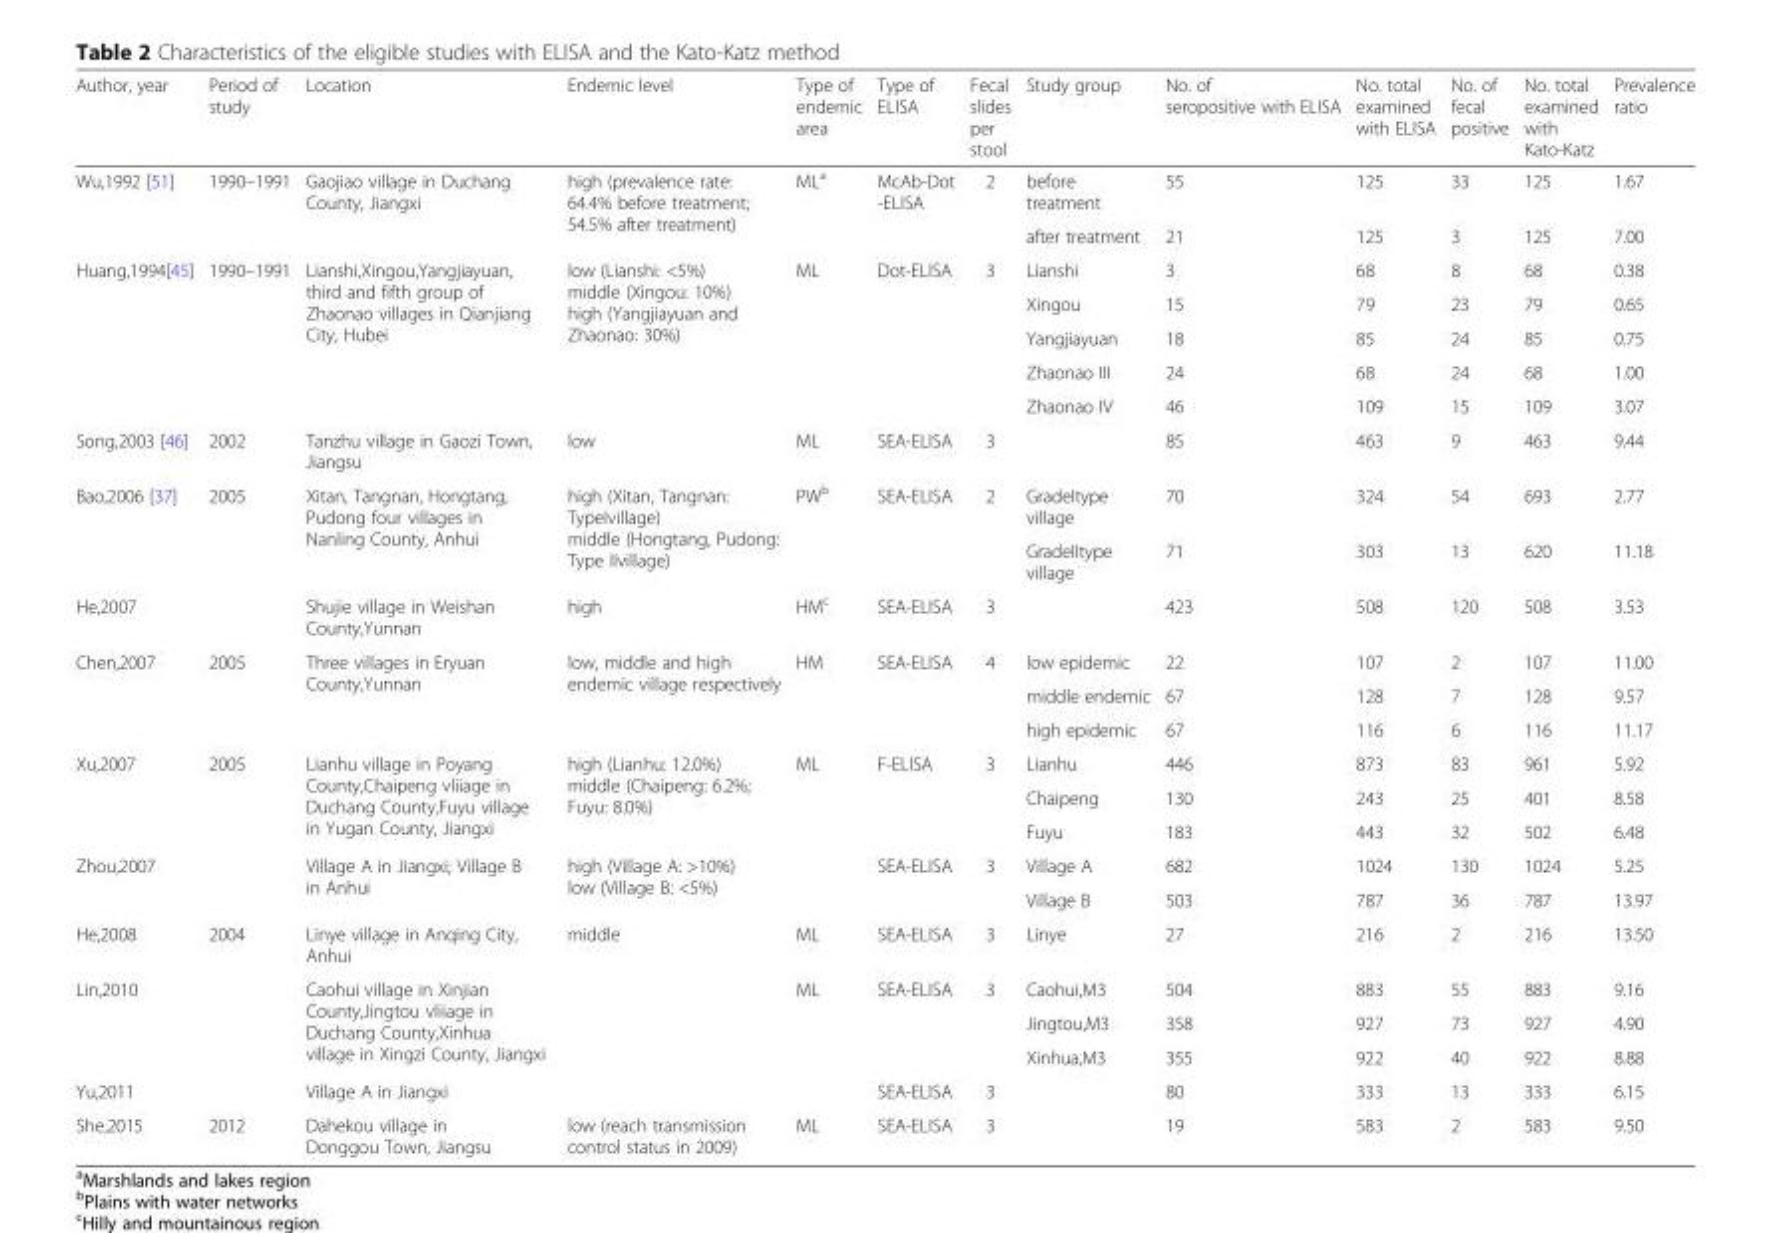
<table><thead><tr><td>Author, year</td><td>Period of study</td><td>Location</td><td>Endemic level</td><td>Type of endemic area</td><td>Type of ELISA</td><td>Fecal slides per stool</td><td>Study group</td><td>No. of seropositive with ELISA</td><td>No. total examined with ELISA</td><td>No. of fecal positive</td><td>No. total examined with Kato-Katz</td><td>Prevalence ratio</td></tr></thead><tbody><tr><td rowspan="2">Wu,1992 [51]</td><td rowspan="2">1990–1991</td><td rowspan="2">Gaojiao village in Duchang County, Jiangxi</td><td rowspan="2">high (prevalence rate: 64.4% before treatment; 54.5% after treatment)</td><td rowspan="2">ML<sup>a</sup></td><td rowspan="2">McAb-Dot -ELISA</td><td rowspan="2">2</td><td>before treatment</td><td>55</td><td>125</td><td>33</td><td>125</td><td>1.67</td></tr><tr><td>after treatment</td><td>21</td><td>125</td><td>3</td><td>125</td><td>7.00</td></tr><tr><td rowspan="5">Huang,1994[45]</td><td rowspan="5">1990–1991</td><td rowspan="5">Lianshi,Xingou,Yangjiayuan, third and fifth group of Zhaonao villages in Qianjiang City, Hubei</td><td rowspan="5">low (Lianshi: &lt;5%) middle (Xingou: 10%) high (Yangjiayuan and Zhaonao: 30%)</td><td rowspan="5">ML</td><td rowspan="5">Dot-ELISA</td><td rowspan="5">3</td><td>Lianshi</td><td>3</td><td>68</td><td>8</td><td>68</td><td>0.38</td></tr><tr><td>Xingou</td><td>15</td><td>79</td><td>23</td><td>79</td><td>0.65</td></tr><tr><td>Yangjiayuan</td><td>18</td><td>85</td><td>24</td><td>85</td><td>0.75</td></tr><tr><td>Zhaonao III</td><td>24</td><td>68</td><td>24</td><td>68</td><td>1.00</td></tr><tr><td>Zhaonao IV</td><td>46</td><td>109</td><td>15</td><td>109</td><td>3.07</td></tr><tr><td>Song,2003 [46]</td><td>2002</td><td>Tanzhu village in Gaozi Town, Jiangsu</td><td>low</td><td>ML</td><td>SEA-ELISA</td><td>3</td><td></td><td>85</td><td>463</td><td>9</td><td>463</td><td>9.44</td></tr><tr><td rowspan="2">Bao,2006 [37]</td><td rowspan="2">2005</td><td rowspan="2">Xitan, Tangnan, Hongtang, Pudong four villages in Nanling County, Anhui</td><td rowspan="2">high (Xitan, Tangnan: TypeIvillage) middle (Hongtang, Pudong: Type IIvillage)</td><td rowspan="2">PW<sup>b</sup></td><td rowspan="2">SEA-ELISA</td><td rowspan="2">2</td><td>GradeItype village</td><td>70</td><td>324</td><td>54</td><td>693</td><td>2.77</td></tr><tr><td>GradeIItype village</td><td>71</td><td>303</td><td>13</td><td>620</td><td>11.18</td></tr><tr><td>He,2007</td><td></td><td>Shujie village in Weishan County,Yunnan</td><td>high</td><td>HM<sup>c</sup></td><td>SEA-ELISA</td><td>3</td><td></td><td>423</td><td>508</td><td>120</td><td>508</td><td>3.53</td></tr><tr><td rowspan="3">Chen,2007</td><td rowspan="3">2005</td><td rowspan="3">Three villages in Eryuan County,Yunnan</td><td rowspan="3">low, middle and high endemic village respectively</td><td rowspan="3">HM</td><td rowspan="3">SEA-ELISA</td><td rowspan="3">4</td><td>low epidemic</td><td>22</td><td>107</td><td>2</td><td>107</td><td>11.00</td></tr><tr><td>middle endemic</td><td>67</td><td>128</td><td>7</td><td>128</td><td>9.57</td></tr><tr><td>high epidemic</td><td>67</td><td>116</td><td>6</td><td>116</td><td>11.17</td></tr><tr><td rowspan="3">Xu,2007</td><td rowspan="3">2005</td><td rowspan="3">Lianhu village in Poyang County,Chaipeng vliiage in Duchang County,Fuyu village in Yugan County, Jiangxi</td><td rowspan="3">high (Lianhu: 12.0%) middle (Chaipeng: 6.2%; Fuyu: 8.0%)</td><td rowspan="3">ML</td><td rowspan="3">F-ELISA</td><td rowspan="3">3</td><td>Lianhu</td><td>446</td><td>873</td><td>83</td><td>961</td><td>5.92</td></tr><tr><td>Chaipeng</td><td>130</td><td>243</td><td>25</td><td>401</td><td>8.58</td></tr><tr><td>Fuyu</td><td>183</td><td>443</td><td>32</td><td>502</td><td>6.48</td></tr><tr><td rowspan="2">Zhou,2007</td><td rowspan="2"></td><td rowspan="2">Village A in Jiangxi; Village B in Anhui</td><td rowspan="2">high (Village A: &gt;10%) low (Village B: &lt;5%)</td><td rowspan="2"></td><td rowspan="2">SEA-ELISA</td><td rowspan="2">3</td><td>Village A</td><td>682</td><td>1024</td><td>130</td><td>1024</td><td>5.25</td></tr><tr><td>Village B</td><td>503</td><td>787</td><td>36</td><td>787</td><td>13.97</td></tr><tr><td>He,2008</td><td>2004</td><td>Linye village in Anqing City, Anhui</td><td>middle</td><td>ML</td><td>SEA-ELISA</td><td>3</td><td>Linye</td><td>27</td><td>216</td><td>2</td><td>216</td><td>13.50</td></tr><tr><td rowspan="3">Lin,2010</td><td rowspan="3"></td><td rowspan="3">Caohui village in Xinjian County,Jingtou vliiage in Duchang County,Xinhua village in Xingzi County, Jiangxi</td><td rowspan="3"></td><td rowspan="3">ML</td><td rowspan="3">SEA-ELISA</td><td rowspan="3">3</td><td>Caohui,M3</td><td>504</td><td>883</td><td>55</td><td>883</td><td>9.16</td></tr><tr><td>Jingtou,M3</td><td>358</td><td>927</td><td>73</td><td>927</td><td>4.90</td></tr><tr><td>Xinhua,M3</td><td>355</td><td>922</td><td>40</td><td>922</td><td>8.88</td></tr><tr><td>Yu,2011</td><td></td><td>Village A in Jiangxi</td><td></td><td></td><td>SEA-ELISA</td><td>3</td><td></td><td>80</td><td>333</td><td>13</td><td>333</td><td>6.15</td></tr><tr><td>She,2015</td><td>2012</td><td>Dahekou village in Donggou Town, Jiangsu</td><td>low (reach transmission control status in 2009)</td><td>ML</td><td>SEA-ELISA</td><td>3</td><td></td><td>19</td><td>583</td><td>2</td><td>583</td><td>9.50</td></tr></tbody></table>